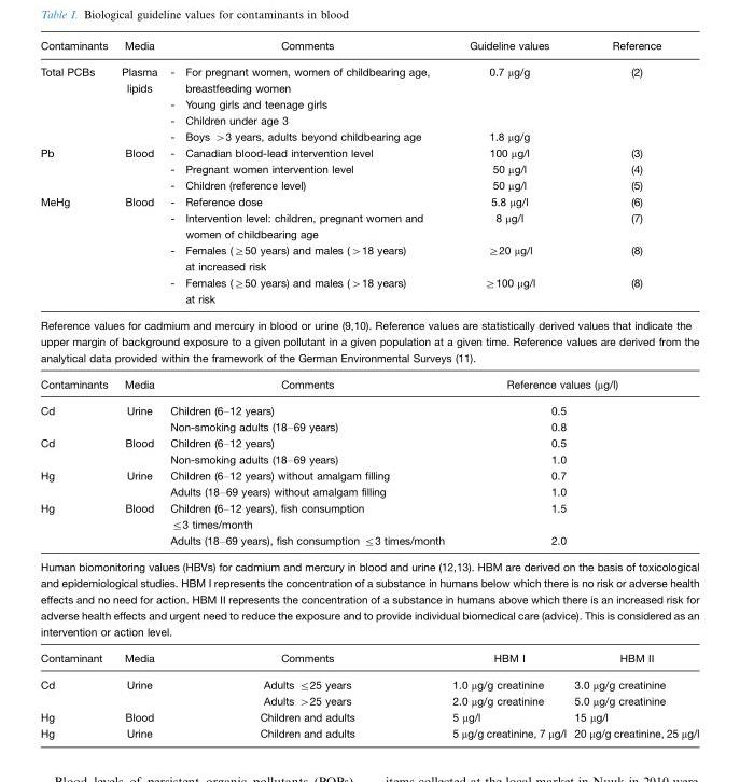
<table><tbody><tr><td>Contaminants</td><td>Media</td><td>Comments</td><td>Guideline values</td><td>Reference</td></tr><tr><td rowspan="4">Total PCBs</td><td>Plasma lipids</td><td>- For pregnant women, women of childbearing age, breastfeeding women</td><td>0.7 µg/g</td><td>(2)</td></tr><tr><td></td><td>- Young girls and teenage girls</td><td></td><td></td></tr><tr><td></td><td>- Children under age 3</td><td></td><td></td></tr><tr><td></td><td>- Boys &gt;3 years, adults beyond childbearing age</td><td>1.8 µg/g</td><td></td></tr><tr><td rowspan="3">Pb</td><td>Blood</td><td>- Canadian blood-lead intervention level</td><td>100 µg/l</td><td>(3)</td></tr><tr><td></td><td>- Pregnant women intervention level</td><td>50 µg/l</td><td>(4)</td></tr><tr><td></td><td>- Children (reference level)</td><td>50 µg/l</td><td>(5)</td></tr><tr><td rowspan="4">MeHg</td><td>Blood</td><td>- Reference dose</td><td>5.8 µg/l</td><td>(6)</td></tr><tr><td></td><td>- Intervention level: children, pregnant women and women of childbearing age</td><td>8 µg/l</td><td>(7)</td></tr><tr><td></td><td>- Females (≥50 years) and males (&gt;18 years) at increased risk</td><td>≥20 µg/l</td><td>(8)</td></tr><tr><td></td><td>- Females (≥50 years) and males (&gt;18 years) at risk</td><td>≥100 µg/l</td><td>(8)</td></tr><tr><td colspan="5">Reference values for cadmium and mercury in blood or urine (9,10). Reference values are statistically derived values that indicate the upper margin of background exposure to a given pollutant in a given population at a given time. Reference values are derived from the analytical data provided within the framework of the German Environmental Surveys (11).</td></tr><tr><td>Contaminants</td><td>Media</td><td>Comments</td><td colspan="2">Reference values (µg/l)</td></tr><tr><td rowspan="2">Cd</td><td>Urine</td><td>Children (6–12 years)</td><td colspan="2">0.5</td></tr><tr><td></td><td>Non-smoking adults (18–69 years)</td><td colspan="2">0.8</td></tr><tr><td rowspan="2">Cd</td><td>Blood</td><td>Children (6–12 years)</td><td colspan="2">0.5</td></tr><tr><td></td><td>Non-smoking adults (18–69 years)</td><td colspan="2">1.0</td></tr><tr><td rowspan="2">Hg</td><td>Urine</td><td>Children (6–12 years) without amalgam filling</td><td colspan="2">0.7</td></tr><tr><td></td><td>Adults (18–69 years) without amalgam filling</td><td colspan="2">1.0</td></tr><tr><td rowspan="2">Hg</td><td>Blood</td><td>Children (6–12 years), fish consumption ≤3 times/month</td><td colspan="2">1.5</td></tr><tr><td></td><td>Adults (18–69 years), fish consumption ≤3 times/month</td><td colspan="2">2.0</td></tr><tr><td colspan="5">Human biomonitoring values (HBVs) for cadmium and mercury in blood and urine (12,13). HBM are derived on the basis of toxicological and epidemiological studies. HBM I represents the concentration of a substance in humans below which there is no risk or adverse health effects and no need for action. HBM II represents the concentration of a substance in humans above which there is an increased risk for adverse health effects and urgent need to reduce the exposure and to provide individual biomedical care (advice). This is considered as an intervention or action level.</td></tr><tr><td>Contaminant</td><td>Media</td><td>Comments</td><td>HBM I</td><td>HBM II</td></tr><tr><td rowspan="2">Cd</td><td>Urine</td><td>Adults ≤25 years</td><td>1.0 µg/g creatinine</td><td>3.0 µg/g creatinine</td></tr><tr><td></td><td>Adults &gt;25 years</td><td>2.0 µg/g creatinine</td><td>5.0 µg/g creatinine</td></tr><tr><td>Hg</td><td>Blood</td><td>Children and adults</td><td>5 µg/l</td><td>15 µg/l</td></tr><tr><td>Hg</td><td>Urine</td><td>Children and adults</td><td>5 µg/g creatinine, 7 µg/l</td><td>20 µg/g creatinine, 25 µg/l</td></tr></tbody></table>